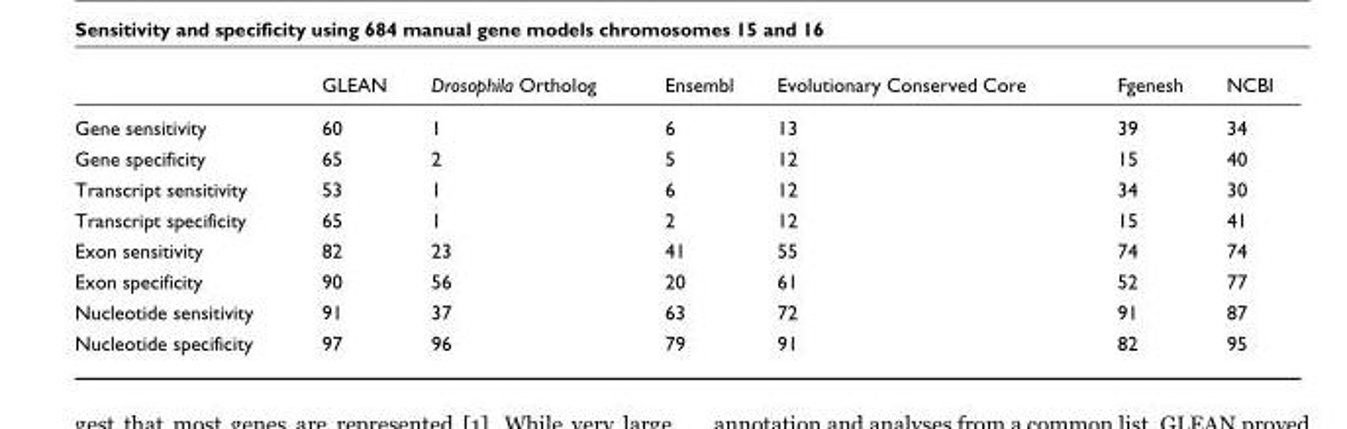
<table><thead><tr><td></td><td>GLEAN</td><td>Drosophila Ortholog</td><td>Ensembl</td><td>Evolutionary Conserved Core</td><td>Fgenesh</td><td>NCBI</td></tr></thead><tbody><tr><td>Gene sensitivity</td><td>60</td><td>1</td><td>6</td><td>13</td><td>39</td><td>34</td></tr><tr><td>Gene specificity</td><td>65</td><td>2</td><td>5</td><td>12</td><td>15</td><td>40</td></tr><tr><td>Transcript sensitivity</td><td>53</td><td>1</td><td>6</td><td>12</td><td>34</td><td>30</td></tr><tr><td>Transcript specificity</td><td>65</td><td>1</td><td>2</td><td>12</td><td>15</td><td>41</td></tr><tr><td>Exon sensitivity</td><td>82</td><td>23</td><td>41</td><td>55</td><td>74</td><td>74</td></tr><tr><td>Exon specificity</td><td>90</td><td>56</td><td>20</td><td>61</td><td>52</td><td>77</td></tr><tr><td>Nucleotide sensitivity</td><td>91</td><td>37</td><td>63</td><td>72</td><td>91</td><td>87</td></tr><tr><td>Nucleotide specificity</td><td>97</td><td>96</td><td>79</td><td>91</td><td>82</td><td>95</td></tr></tbody></table>